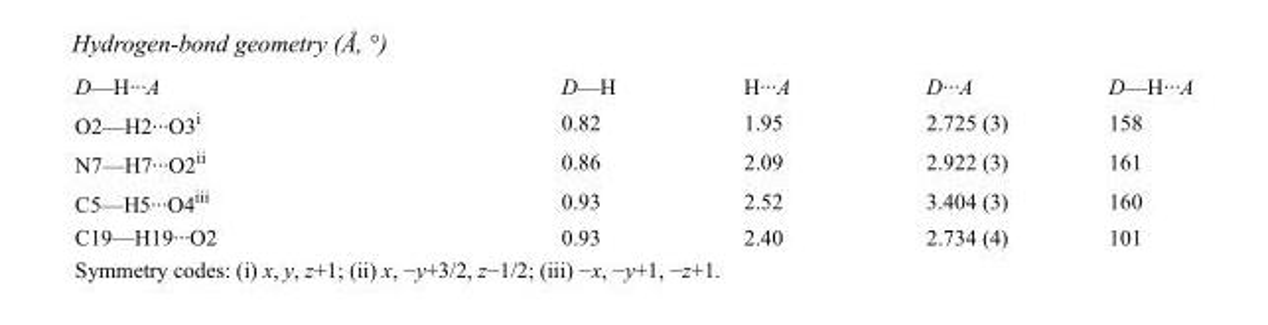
<table><tbody><tr><td>D—H···A</td><td>D—H</td><td>H···A</td><td>D···A</td><td>D—H···A</td></tr><tr><td>O2—H2···O3<sup>i</sup></td><td>0.82</td><td>1.95</td><td>2.725 (3)</td><td>158</td></tr><tr><td>N7—H7···O2<sup>ii</sup></td><td>0.86</td><td>2.09</td><td>2.922 (3)</td><td>161</td></tr><tr><td>C5—H5···O4<sup>iii</sup></td><td>0.93</td><td>2.52</td><td>3.404 (3)</td><td>160</td></tr><tr><td>C19—H19···O2</td><td>0.93</td><td>2.40</td><td>2.734 (4)</td><td>101</td></tr></tbody></table>